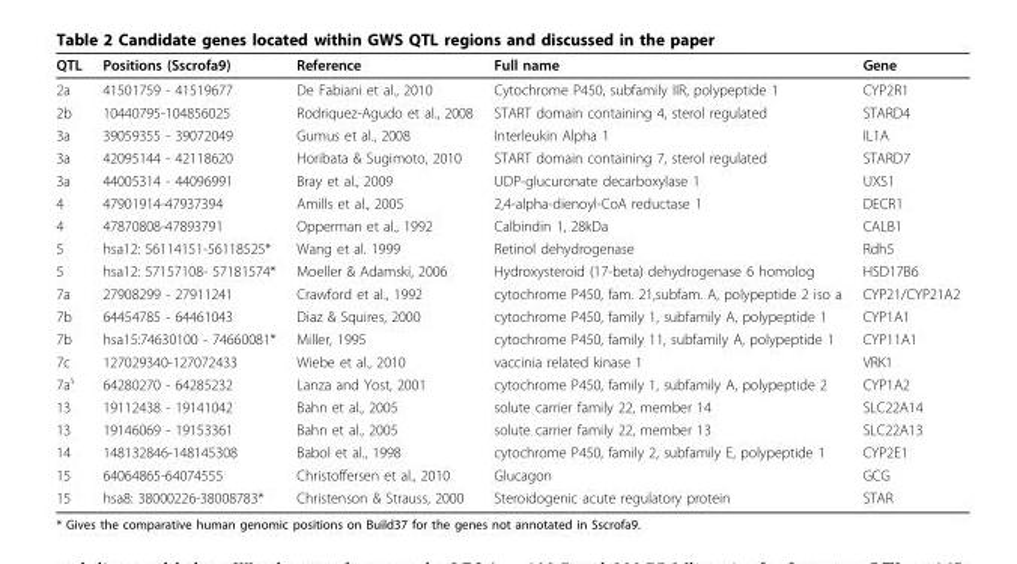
<table><thead><tr><td>QTL</td><td>Positions (Sscrofa9)</td><td>Reference</td><td>Full name</td><td>Gene</td></tr></thead><tbody><tr><td>2a</td><td>41501759 - 41519677</td><td>De Fabiani et al., 2010</td><td>Cytochrome P450, subfamily IIR, polypeptide 1</td><td>CYP2R1</td></tr><tr><td>2b</td><td>10440795-104856025</td><td>Rodriquez-Agudo et al., 2008</td><td>START domain containing 4, sterol regulated</td><td>STARD4</td></tr><tr><td>3a</td><td>39059355 - 39072049</td><td>Gumus et al., 2008</td><td>Interleukin Alpha 1</td><td>IL1A</td></tr><tr><td>3a</td><td>42095144 - 42118620</td><td>Horibata &amp; Sugimoto, 2010</td><td>START domain containing 7, sterol regulated</td><td>STARD7</td></tr><tr><td>3a</td><td>44005314 - 44096991</td><td>Bray et al., 2009</td><td>UDP-glucuronate decarboxylase 1</td><td>UXS1</td></tr><tr><td>4</td><td>47901914-47937394</td><td>Amills et al., 2005</td><td>2,4-alpha-dienoyl-CoA reductase 1</td><td>DECR1</td></tr><tr><td>4</td><td>47870808-47893791</td><td>Opperman et al., 1992</td><td>Calbindin 1, 28kDa</td><td>CALB1</td></tr><tr><td>5</td><td>hsa12: 56114151-56118525*</td><td>Wang et al. 1999</td><td>Retinol dehydrogenase</td><td>Rdh5</td></tr><tr><td>5</td><td>hsa12: 57157108- 57181574*</td><td>Moeller &amp; Adamski, 2006</td><td>Hydroxysteroid (17-beta) dehydrogenase 6 homolog</td><td>HSD17B6</td></tr><tr><td>7a</td><td>27908299 - 27911241</td><td>Crawford et al., 1992</td><td>cytochrome P450, fam. 21,subfam. A, polypeptide 2 iso a</td><td>CYP21/CYP21A2</td></tr><tr><td>7b</td><td>64454785 - 64461043</td><td>Diaz &amp; Squires, 2000</td><td>cytochrome P450, family 1, subfamily A, polypeptide 1</td><td>CYP1A1</td></tr><tr><td>7b</td><td>hsa15:74630100 - 74660081*</td><td>Miller, 1995</td><td>cytochrome P450, family 11, subfamily A, polypeptide 1</td><td>CYP11A1</td></tr><tr><td>7c</td><td>127029340-127072433</td><td>Wiebe et al., 2010</td><td>vaccinia related kinase 1</td><td>VRK1</td></tr><tr><td>7a<sup>s</sup></td><td>64280270 - 64285232</td><td>Lanza and Yost, 2001</td><td>cytochrome P450, family 1, subfamily A, polypeptide 2</td><td>CYP1A2</td></tr><tr><td>13</td><td>19112438 - 19141042</td><td>Bahn et al., 2005</td><td>solute carrier family 22, member 14</td><td>SLC22A14</td></tr><tr><td>13</td><td>19146069 - 19153361</td><td>Bahn et al., 2005</td><td>solute carrier family 22, member 13</td><td>SLC22A13</td></tr><tr><td>14</td><td>148132846-148145308</td><td>Babol et al., 1998</td><td>cytochrome P450, family 2, subfamily E, polypeptide 1</td><td>CYP2E1</td></tr><tr><td>15</td><td>64064865-64074555</td><td>Christoffersen et al., 2010</td><td>Glucagon</td><td>GCG</td></tr><tr><td>15</td><td>hsa8: 38000226-38008783*</td><td>Christenson &amp; Strauss, 2000</td><td>Steroidogenic acute regulatory protein</td><td>STAR</td></tr></tbody></table>